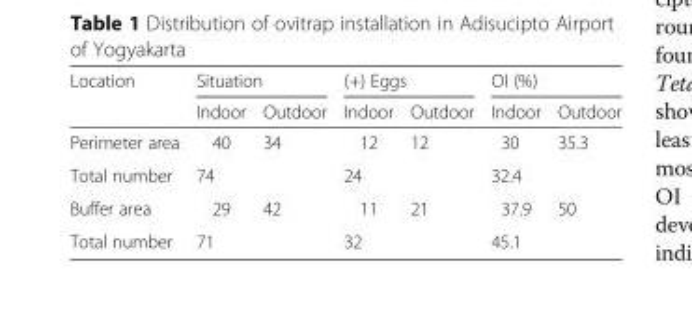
<table><thead><tr><td rowspan="2">Location</td><td colspan="2">Situation</td><td colspan="2">(+) Eggs</td><td colspan="2">OI (%)</td></tr><tr><td>Indoor</td><td>Outdoor</td><td>Indoor</td><td>Outdoor</td><td>Indoor</td><td>Outdoor</td></tr></thead><tbody><tr><td>Perimeter area</td><td>40</td><td>34</td><td>12</td><td>12</td><td>30</td><td>35.3</td></tr><tr><td>Total number</td><td colspan="2">74</td><td colspan="2">24</td><td colspan="2">32.4</td></tr><tr><td>Buffer area</td><td>29</td><td>42</td><td>11</td><td>21</td><td>37.9</td><td>50</td></tr><tr><td>Total number</td><td colspan="2">71</td><td colspan="2">32</td><td colspan="2">45.1</td></tr></tbody></table>